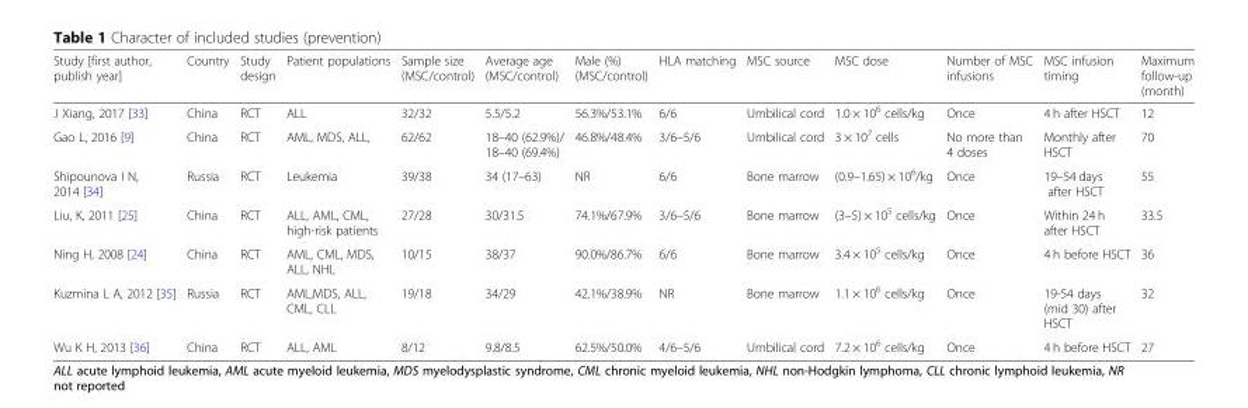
<table><thead><tr><td>Study [first author, publish year]</td><td>Country</td><td>Study design</td><td>Patient populations</td><td>Sample size (MSC/control)</td><td>Average age (MSC/control)</td><td>Male (%) (MSC/control)</td><td>HLA matching</td><td>MSC source</td><td>MSC dose</td><td>Number of MSC infusions</td><td>MSC infusion timing</td><td>Maximum follow-up (month)</td></tr></thead><tbody><tr><td>J Xiang, 2017 [33]</td><td>China</td><td>RCT</td><td>ALL</td><td>32/32</td><td>5.5/5.2</td><td>56.3%/53.1%</td><td>6/6</td><td>Umbilical cord</td><td>1.0 × 10<sup>6</sup> cells/kg</td><td>Once</td><td>4 h after HSCT</td><td>12</td></tr><tr><td>Gao L, 2016 [9]</td><td>China</td><td>RCT</td><td>AML, MDS, ALL,</td><td>62/62</td><td>18–40 (62.9%)/ 18–40 (69.4%)</td><td>46.8%/48.4%</td><td>3/6–5/6</td><td>Umbilical cord</td><td>3 × 10<sup>7</sup> cells</td><td>No more than 4 doses</td><td>Monthly after HSCT</td><td>70</td></tr><tr><td>Shipounova I N, 2014 [34]</td><td>Russia</td><td>RCT</td><td>Leukemia</td><td>39/38</td><td>34 (17–63)</td><td>NR</td><td>6/6</td><td>Bone marrow</td><td>(0.9–1.65) × 10<sup>6</sup>/kg</td><td>Once</td><td>19–54 days after HSCT</td><td>55</td></tr><tr><td>Liu, K, 2011 [25]</td><td>China</td><td>RCT</td><td>ALL, AML, CML, high-risk patients</td><td>27/28</td><td>30/31.5</td><td>74.1%/67.9%</td><td>3/6–5/6</td><td>Bone marrow</td><td>(3–5) × 10<sup>5</sup> cells/kg</td><td>Once</td><td>Within 24 h after HSCT</td><td>33.5</td></tr><tr><td>Ning H, 2008 [24]</td><td>China</td><td>RCT</td><td>AML, CML, MDS, ALL, NHL</td><td>10/15</td><td>38/37</td><td>90.0%/86.7%</td><td>6/6</td><td>Bone marrow</td><td>3.4 × 10<sup>5</sup> cells/kg</td><td>Once</td><td>4 h before HSCT</td><td>36</td></tr><tr><td>Kuzmina L A, 2012 [35]</td><td>Russia</td><td>RCT</td><td>AML,MDS, ALL, CML, CLL</td><td>19/18</td><td>34/29</td><td>42.1%/38.9%</td><td>NR</td><td>Bone marrow</td><td>1.1 × 10<sup>6</sup> cells/kg</td><td>Once</td><td>19-54 days (mid 30) after HSCT</td><td>32</td></tr><tr><td>Wu K H, 2013 [36]</td><td>China</td><td>RCT</td><td>ALL, AML</td><td>8/12</td><td>9.8/8.5</td><td>62.5%/50.0%</td><td>4/6–5/6</td><td>Umbilical cord</td><td>7.2 × 10<sup>6</sup> cells/kg</td><td>Once</td><td>4 h before HSCT</td><td>27</td></tr></tbody></table>